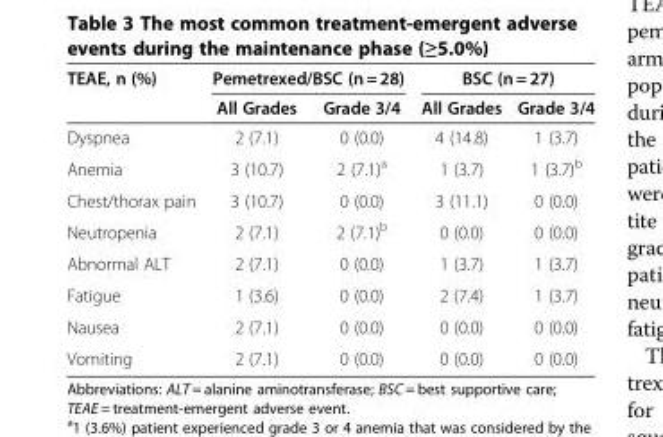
<table><thead><tr><td rowspan="2">TEAE, n (%)</td><td colspan="2">Pemetrexed/BSC (n = 28)</td><td colspan="2">BSC (n = 27)</td></tr><tr><td>All Grades</td><td>Grade 3/4</td><td>All Grades</td><td>Grade 3/4</td></tr></thead><tbody><tr><td>Dyspnea</td><td>2 (7.1)</td><td>0 (0.0)</td><td>4 (14.8)</td><td>1 (3.7)</td></tr><tr><td>Anemia</td><td>3 (10.7)</td><td>2 (7.1)<sup>a</sup></td><td>1 (3.7)</td><td>1 (3.7)<sup>b</sup></td></tr><tr><td>Chest/thorax pain</td><td>3 (10.7)</td><td>0 (0.0)</td><td>3 (11.1)</td><td>0 (0.0)</td></tr><tr><td>Neutropenia</td><td>2 (7.1)</td><td>2 (7.1)<sup>b</sup></td><td>0 (0.0)</td><td>0 (0.0)</td></tr><tr><td>Abnormal ALT</td><td>2 (7.1)</td><td>0 (0.0)</td><td>1 (3.7)</td><td>1 (3.7)</td></tr><tr><td>Fatigue</td><td>1 (3.6)</td><td>0 (0.0)</td><td>2 (7.4)</td><td>1 (3.7)</td></tr><tr><td>Nausea</td><td>2 (7.1)</td><td>0 (0.0)</td><td>0 (0.0)</td><td>0 (0.0)</td></tr><tr><td>Vomiting</td><td>2 (7.1)</td><td>0 (0.0)</td><td>0 (0.0)</td><td>0 (0.0)</td></tr></tbody></table>